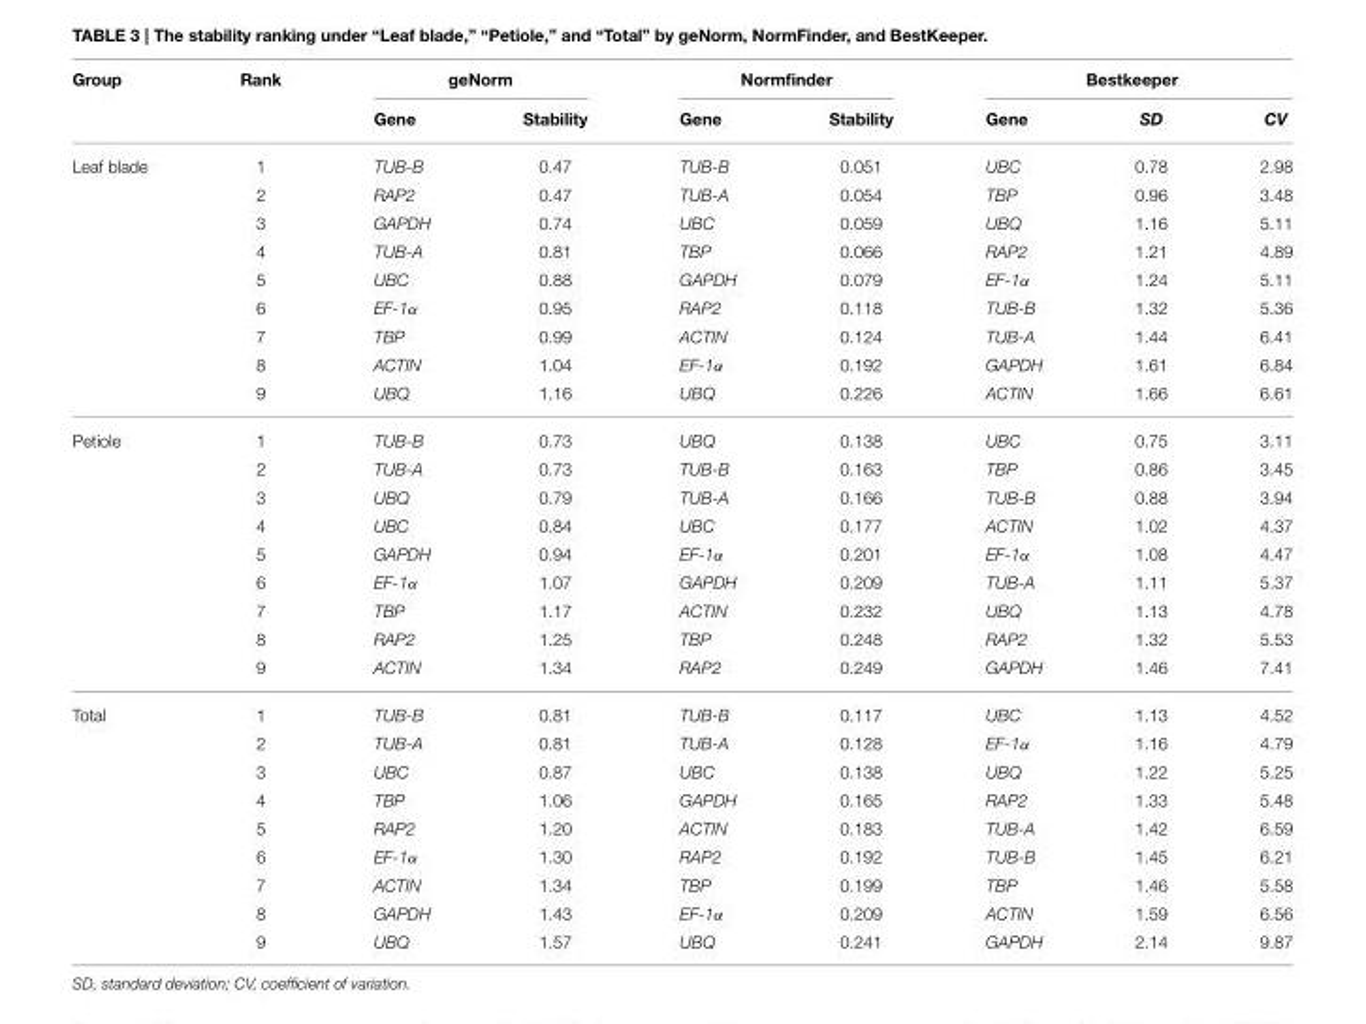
<table><thead><tr><td rowspan="2">Group</td><td rowspan="2">Rank</td><td colspan="2">geNorm</td><td colspan="2">Normfinder</td><td colspan="3">Bestkeeper</td></tr><tr><td>Gene</td><td>Stability</td><td>Gene</td><td>Stability</td><td>Gene</td><td>SD</td><td>CV</td></tr></thead><tbody><tr><td rowspan="9">Leaf blade</td><td>1</td><td>TUB-B</td><td>0.47</td><td>TUB-B</td><td>0.051</td><td>UBC</td><td>0.78</td><td>2.98</td></tr><tr><td>2</td><td>RAP2</td><td>0.47</td><td>TUB-A</td><td>0.054</td><td>TBP</td><td>0.96</td><td>3.48</td></tr><tr><td>3</td><td>GAPDH</td><td>0.74</td><td>UBC</td><td>0.059</td><td>UBQ</td><td>1.16</td><td>5.11</td></tr><tr><td>4</td><td>TUB-A</td><td>0.81</td><td>TBP</td><td>0.066</td><td>RAP2</td><td>1.21</td><td>4.89</td></tr><tr><td>5</td><td>UBC</td><td>0.88</td><td>GAPDH</td><td>0.079</td><td>EF-1α</td><td>1.24</td><td>5.11</td></tr><tr><td>6</td><td>EF-1α</td><td>0.95</td><td>RAP2</td><td>0.118</td><td>TUB-B</td><td>1.32</td><td>5.36</td></tr><tr><td>7</td><td>TBP</td><td>0.99</td><td>ACTIN</td><td>0.124</td><td>TUB-A</td><td>1.44</td><td>6.41</td></tr><tr><td>8</td><td>ACTIN</td><td>1.04</td><td>EF-1α</td><td>0.192</td><td>GAPDH</td><td>1.61</td><td>6.84</td></tr><tr><td>9</td><td>UBQ</td><td>1.16</td><td>UBQ</td><td>0.226</td><td>ACTIN</td><td>1.66</td><td>6.61</td></tr><tr><td rowspan="9">Petiole</td><td>1</td><td>TUB-B</td><td>0.73</td><td>UBQ</td><td>0.138</td><td>UBC</td><td>0.75</td><td>3.11</td></tr><tr><td>2</td><td>TUB-A</td><td>0.73</td><td>TUB-B</td><td>0.163</td><td>TBP</td><td>0.86</td><td>3.45</td></tr><tr><td>3</td><td>UBQ</td><td>0.79</td><td>TUB-A</td><td>0.166</td><td>TUB-B</td><td>0.88</td><td>3.94</td></tr><tr><td>4</td><td>UBC</td><td>0.84</td><td>UBC</td><td>0.177</td><td>ACTIN</td><td>1.02</td><td>4.37</td></tr><tr><td>5</td><td>GAPDH</td><td>0.94</td><td>EF-1α</td><td>0.201</td><td>EF-1α</td><td>1.08</td><td>4.47</td></tr><tr><td>6</td><td>EF-1α</td><td>1.07</td><td>GAPDH</td><td>0.209</td><td>TUB-A</td><td>1.11</td><td>5.37</td></tr><tr><td>7</td><td>TBP</td><td>1.17</td><td>ACTIN</td><td>0.232</td><td>UBQ</td><td>1.13</td><td>4.78</td></tr><tr><td>8</td><td>RAP2</td><td>1.25</td><td>TBP</td><td>0.248</td><td>RAP2</td><td>1.32</td><td>5.53</td></tr><tr><td>9</td><td>ACTIN</td><td>1.34</td><td>RAP2</td><td>0.249</td><td>GAPDH</td><td>1.46</td><td>7.41</td></tr><tr><td rowspan="9">Total</td><td>1</td><td>TUB-B</td><td>0.81</td><td>TUB-B</td><td>0.117</td><td>UBC</td><td>1.13</td><td>4.52</td></tr><tr><td>2</td><td>TUB-A</td><td>0.81</td><td>TUB-A</td><td>0.128</td><td>EF-1α</td><td>1.16</td><td>4.79</td></tr><tr><td>3</td><td>UBC</td><td>0.87</td><td>UBC</td><td>0.138</td><td>UBQ</td><td>1.22</td><td>5.25</td></tr><tr><td>4</td><td>TBP</td><td>1.06</td><td>GAPDH</td><td>0.165</td><td>RAP2</td><td>1.33</td><td>5.48</td></tr><tr><td>5</td><td>RAP2</td><td>1.20</td><td>ACTIN</td><td>0.183</td><td>TUB-A</td><td>1.42</td><td>6.59</td></tr><tr><td>6</td><td>EF-1α</td><td>1.30</td><td>RAP2</td><td>0.192</td><td>TUB-B</td><td>1.45</td><td>6.21</td></tr><tr><td>7</td><td>ACTIN</td><td>1.34</td><td>TBP</td><td>0.199</td><td>TBP</td><td>1.46</td><td>5.58</td></tr><tr><td>8</td><td>GAPDH</td><td>1.43</td><td>EF-1α</td><td>0.209</td><td>ACTIN</td><td>1.59</td><td>6.56</td></tr><tr><td>9</td><td>UBQ</td><td>1.57</td><td>UBQ</td><td>0.241</td><td>GAPDH</td><td>2.14</td><td>9.87</td></tr></tbody></table>